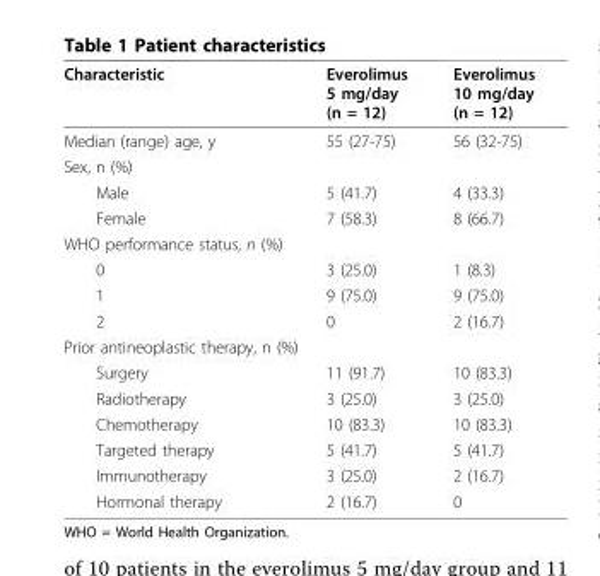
<table><thead><tr><td>Characteristic</td><td>Everolimus 5 mg/day (n = 12)</td><td>Everolimus 10 mg/day (n = 12)</td></tr></thead><tbody><tr><td>Median (range) age, y</td><td>55 (27-75)</td><td>56 (32-75)</td></tr><tr><td colspan="3">Sex, n (%)</td></tr><tr><td>Male</td><td>5 (41.7)</td><td>4 (33.3)</td></tr><tr><td>Female</td><td>7 (58.3)</td><td>8 (66.7)</td></tr><tr><td colspan="3">WHO performance status, n (%)</td></tr><tr><td>0</td><td>3 (25.0)</td><td>1 (8.3)</td></tr><tr><td>1</td><td>9 (75.0)</td><td>9 (75.0)</td></tr><tr><td>2</td><td>0</td><td>2 (16.7)</td></tr><tr><td colspan="3">Prior antineoplastic therapy, n (%)</td></tr><tr><td>Surgery</td><td>11 (91.7)</td><td>10 (83.3)</td></tr><tr><td>Radiotherapy</td><td>3 (25.0)</td><td>3 (25.0)</td></tr><tr><td>Chemotherapy</td><td>10 (83.3)</td><td>10 (83.3)</td></tr><tr><td>Targeted therapy</td><td>5 (41.7)</td><td>5 (41.7)</td></tr><tr><td>Immunotherapy</td><td>3 (25.0)</td><td>2 (16.7)</td></tr><tr><td>Hormonal therapy</td><td>2 (16.7)</td><td>0</td></tr></tbody></table>